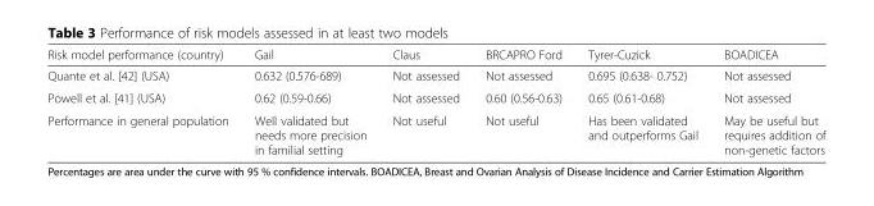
<table><thead><tr><td>Risk model performance (country)</td><td>Gail</td><td>Claus</td><td>BRCAPRO Ford</td><td>Tyrer-Cuzick</td><td>BOADICEA</td></tr></thead><tbody><tr><td>Quante et al. [42] (USA)</td><td>0.632 (0.576-689)</td><td>Not assessed</td><td>Not assessed</td><td>0.695 (0.638- 0.752)</td><td>Not assessed</td></tr><tr><td>Powell et al. [41] (USA)</td><td>0.62 (0.59-0.66)</td><td>Not assessed</td><td>0.60 (0.56-0.63)</td><td>0.65 (0.61-0.68)</td><td>Not assessed</td></tr><tr><td>Performance in general population</td><td>Well validated but needs more precision in familial setting</td><td>Not useful</td><td>Not useful</td><td>Has been validated and outperforms Gail</td><td>May be useful but requires addition of non-genetic factors</td></tr></tbody></table>